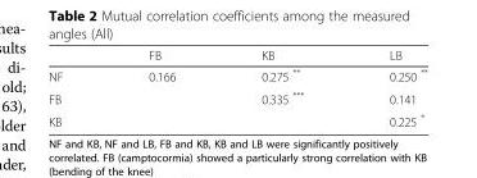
<table><thead><tr><td></td><td>FB</td><td>KB</td><td>LB</td></tr></thead><tbody><tr><td>NF</td><td>0.166</td><td>0.275 **</td><td>0.250 **</td></tr><tr><td>FB</td><td></td><td>0.335 ***</td><td>0.141</td></tr><tr><td>KB</td><td></td><td></td><td>0.225 *</td></tr></tbody></table>